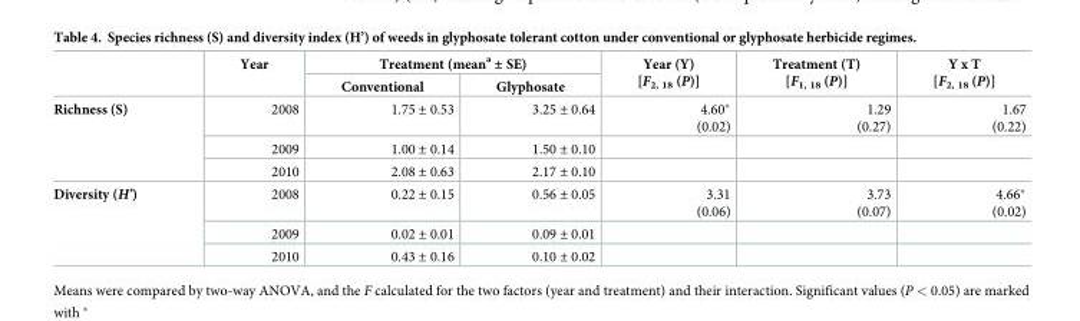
<table><thead><tr><td rowspan="2"></td><td rowspan="2">Year</td><td colspan="2">Treatment (mean<sup>a</sup> ± SE)</td><td rowspan="2">Year (Y) [F<sub>2, 18</sub> (P)]</td><td rowspan="2">Treatment (T) [F<sub>1, 18</sub> (P)]</td><td rowspan="2">Y x T [F<sub>2, 18</sub> (P)]</td></tr><tr><td>Conventional</td><td>Glyphosate</td></tr></thead><tbody><tr><td rowspan="3">Richness (S)</td><td>2008</td><td>1.75 ± 0.53</td><td>3.25 ± 0.64</td><td>4.60* (0.02)</td><td>1.29 (0.27)</td><td>1.67 (0.22)</td></tr><tr><td>2009</td><td>1.00 ± 0.14</td><td>1.50 ± 0.10</td><td></td><td></td><td></td></tr><tr><td>2010</td><td>2.08 ± 0.63</td><td>2.17 ± 0.10</td><td></td><td></td><td></td></tr><tr><td rowspan="3">Diversity (H’)</td><td>2008</td><td>0.22 ± 0.15</td><td>0.56 ± 0.05</td><td>3.31 (0.06)</td><td>3.73 (0.07)</td><td>4.66* (0.02)</td></tr><tr><td>2009</td><td>0.02 ± 0.01</td><td>0.09 ± 0.01</td><td></td><td></td><td></td></tr><tr><td>2010</td><td>0.43 ± 0.16</td><td>0.10 ± 0.02</td><td></td><td></td><td></td></tr></tbody></table>